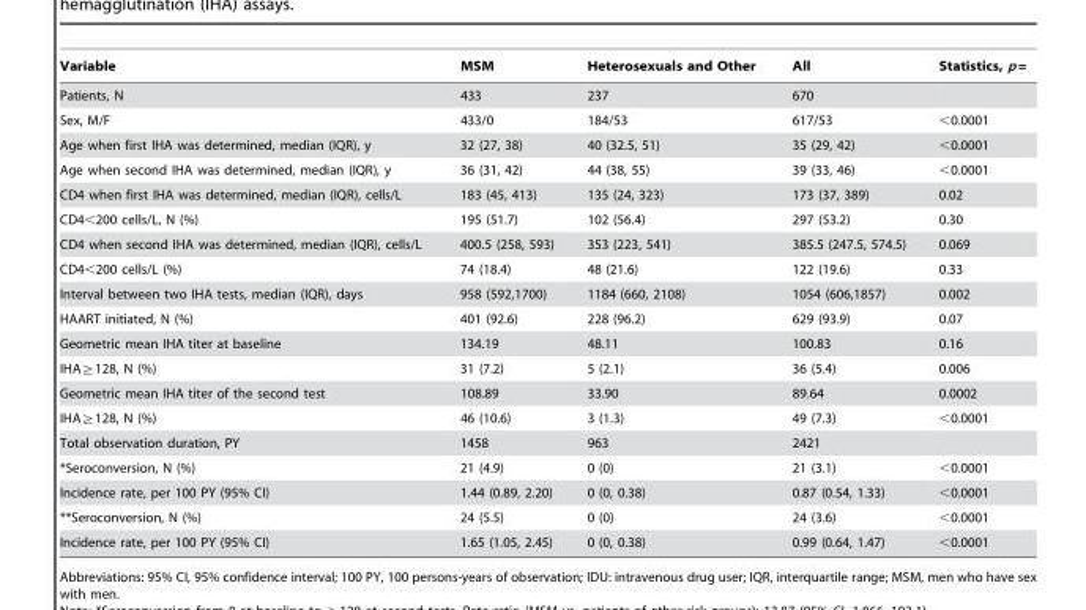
<table><thead><tr><td>Variable</td><td>MSM</td><td>Heterosexuals and Other</td><td>All</td><td>Statistics, p =</td></tr></thead><tbody><tr><td>Patients, N</td><td>433</td><td>237</td><td>670</td><td></td></tr><tr><td>Sex, M/F</td><td>433/0</td><td>184/53</td><td>617/53</td><td>&lt;0.0001</td></tr><tr><td>Age when first IHA was determined, median (IQR), y</td><td>32 (27, 38)</td><td>40 (32.5, 51)</td><td>35 (29, 42)</td><td>&lt;0.0001</td></tr><tr><td>Age when second IHA was determined, median (IQR), y</td><td>36 (31, 42)</td><td>44 (38, 55)</td><td>39 (33, 46)</td><td>&lt;0.0001</td></tr><tr><td>CD4 when first IHA was determined, median (IQR), cells/L</td><td>183 (45, 413)</td><td>135 (24, 323)</td><td>173 (37, 389)</td><td>0.02</td></tr><tr><td>CD4&lt;200 cells/L, N (%)</td><td>195 (51.7)</td><td>102 (56.4)</td><td>297 (53.2)</td><td>0.30</td></tr><tr><td>CD4 when second IHA was determined, median (IQR), cells/L</td><td>400.5 (258, 593)</td><td>353 (223, 541)</td><td>385.5 (247.5, 574.5)</td><td>0.069</td></tr><tr><td>CD4&lt;200 cells/L (%)</td><td>74 (18.4)</td><td>48 (21.6)</td><td>122 (19.6)</td><td>0.33</td></tr><tr><td>Interval between two IHA tests, median (IQR), days</td><td>958 (592,1700)</td><td>1184 (660, 2108)</td><td>1054 (606,1857)</td><td>0.002</td></tr><tr><td>HAART initiated, N (%)</td><td>401 (92.6)</td><td>228 (96.2)</td><td>629 (93.9)</td><td>0.07</td></tr><tr><td>Geometric mean IHA titer at baseline</td><td>134.19</td><td>48.11</td><td>100.83</td><td>0.16</td></tr><tr><td>IHA≧128, N (%)</td><td>31 (7.2)</td><td>5 (2.1)</td><td>36 (5.4)</td><td>0.006</td></tr><tr><td>Geometric mean IHA titer of the second test</td><td>108.89</td><td>33.90</td><td>89.64</td><td>0.0002</td></tr><tr><td>IHA≧128, N (%)</td><td>46 (10.6)</td><td>3 (1.3)</td><td>49 (7.3)</td><td>&lt;0.0001</td></tr><tr><td>Total observation duration, PY</td><td>1458</td><td>963</td><td>2421</td><td></td></tr><tr><td>*Seroconversion, N (%)</td><td>21 (4.9)</td><td>0 (0)</td><td>21 (3.1)</td><td>&lt;0.0001</td></tr><tr><td>Incidence rate, per 100 PY (95% CI)</td><td>1.44 (0.89, 2.20)</td><td>0 (0, 0.38)</td><td>0.87 (0.54, 1.33)</td><td>&lt;0.0001</td></tr><tr><td>**Seroconversion, N (%)</td><td>24 (5.5)</td><td>0 (0)</td><td>24 (3.6)</td><td>&lt;0.0001</td></tr><tr><td>Incidence rate, per 100 PY (95% CI)</td><td>1.65 (1.05, 2.45)</td><td>0 (0, 0.38)</td><td>0.99 (0.64, 1.47)</td><td>&lt;0.0001</td></tr></tbody></table>